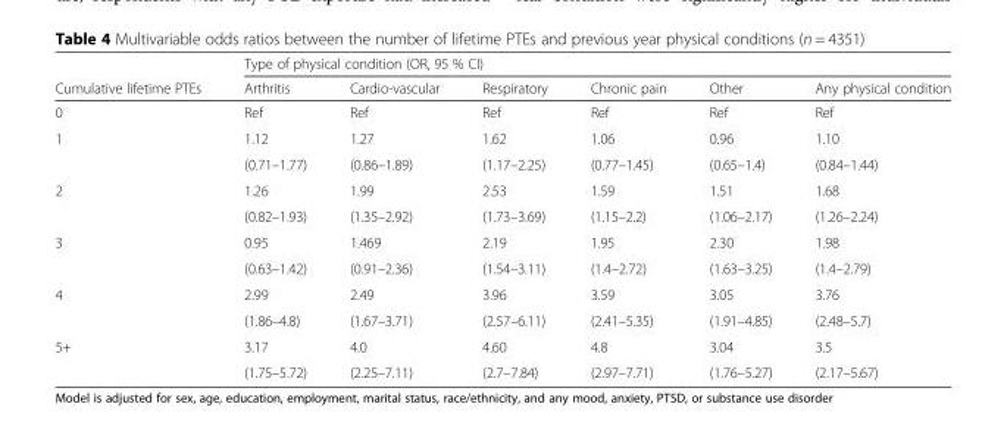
<table><thead><tr><td rowspan="2">Cumulative lifetime PTEs</td><td colspan="6">Type of physical condition (OR, 95 % CI)</td></tr><tr><td>Arthritis</td><td>Cardio-vascular</td><td>Respiratory</td><td>Chronic pain</td><td>Other</td><td>Any physical condition</td></tr></thead><tbody><tr><td>0</td><td>Ref</td><td>Ref</td><td>Ref</td><td>Ref</td><td>Ref</td><td>Ref</td></tr><tr><td rowspan="2">1</td><td>1.12</td><td>1.27</td><td>1.62</td><td>1.06</td><td>0.96</td><td>1.10</td></tr><tr><td>(0.71–1.77)</td><td>(0.86–1.89)</td><td>(1.17–2.25)</td><td>(0.77–1.45)</td><td>(0.65–1.4)</td><td>(0.84–1.44)</td></tr><tr><td rowspan="2">2</td><td>1.26</td><td>1.99</td><td>2.53</td><td>1.59</td><td>1.51</td><td>1.68</td></tr><tr><td>(0.82–1.93)</td><td>(1.35–2.92)</td><td>(1.73–3.69)</td><td>(1.15–2.2)</td><td>(1.06–2.17)</td><td>(1.26–2.24)</td></tr><tr><td rowspan="2">3</td><td>0.95</td><td>1.469</td><td>2.19</td><td>1.95</td><td>2.30</td><td>1.98</td></tr><tr><td>(0.63–1.42)</td><td>(0.91–2.36)</td><td>(1.54–3.11)</td><td>(1.4–2.72)</td><td>(1.63–3.25)</td><td>(1.4–2.79)</td></tr><tr><td rowspan="2">4</td><td>2.99</td><td>2.49</td><td>3.96</td><td>3.59</td><td>3.05</td><td>3.76</td></tr><tr><td>(1.86–4.8)</td><td>(1.67–3.71)</td><td>(2.57–6.11)</td><td>(2.41–5.35)</td><td>(1.91–4.85)</td><td>(2.48–5.7)</td></tr><tr><td rowspan="2">5+</td><td>3.17</td><td>4.0</td><td>4.60</td><td>4.8</td><td>3.04</td><td>3.5</td></tr><tr><td>(1.75–5.72)</td><td>(2.25–7.11)</td><td>(2.7–7.84)</td><td>(2.97–7.71)</td><td>(1.76–5.27)</td><td>(2.17–5.67)</td></tr></tbody></table>